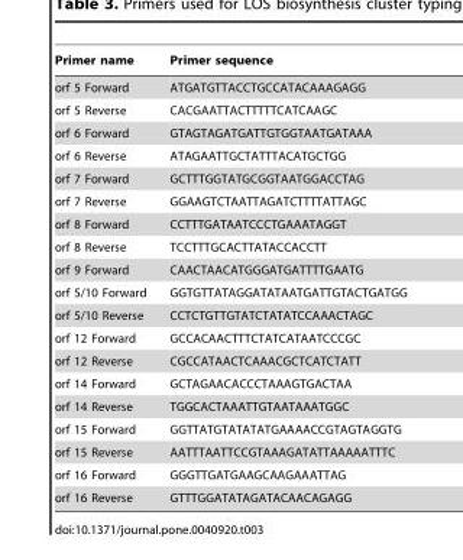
<table><thead><tr><td>Primer name</td><td>Primer sequence</td></tr></thead><tbody><tr><td>orf 5 Forward</td><td>ATGATGTTACCTGCCATACAAAGAGG</td></tr><tr><td>orf 5 Reverse</td><td>CACGAATTACTTTTTCATCAAGC</td></tr><tr><td>orf 6 Forward</td><td>GTAGTAGATGATTGTGGTAATGATAAA</td></tr><tr><td>orf 6 Reverse</td><td>ATAGAATTGCTATTTACATGCTGG</td></tr><tr><td>orf 7 Forward</td><td>GCTTTGGTATGCGGTAATGGACCTAG</td></tr><tr><td>orf 7 Reverse</td><td>GGAAGTCTAATTAGATCTTTTATTAGC</td></tr><tr><td>orf 8 Forward</td><td>CCTTTGATAATCCCTGAAATAGGT</td></tr><tr><td>orf 8 Reverse</td><td>TCCTTTGCACTTATACCACCTT</td></tr><tr><td>orf 9 Forward</td><td>CAACTAACATGGGATGATTTTGAATG</td></tr><tr><td>orf 5/10 Forward</td><td>GGTGTTATAGGATATAATGATTGTACTGATGG</td></tr><tr><td>orf 5/10 Reverse</td><td>CCTCTGTTGTATCTATATCCAAACTAGC</td></tr><tr><td>orf 12 Forward</td><td>GCCACAACTTTCTATCATAATCCCGC</td></tr><tr><td>orf 12 Reverse</td><td>CGCCATAACTCAAACGCTCATCTATT</td></tr><tr><td>orf 14 Forward</td><td>GCTAGAACACCCTAAAGTGACTAA</td></tr><tr><td>orf 14 Reverse</td><td>TGGCACTAAATTGTAATAAATGGC</td></tr><tr><td>orf 15 Forward</td><td>GGTTATGTATATATGAAAACCGTAGTAGGTG</td></tr><tr><td>orf 15 Reverse</td><td>AATTTAATTCCGTAAAGATATTAAAAATTTC</td></tr><tr><td>orf 16 Forward</td><td>GGGTTGATGAAGCAAGAAATTAG</td></tr><tr><td>orf 16 Reverse</td><td>GTTTGGATATAGATACAACAGAGG</td></tr></tbody></table>